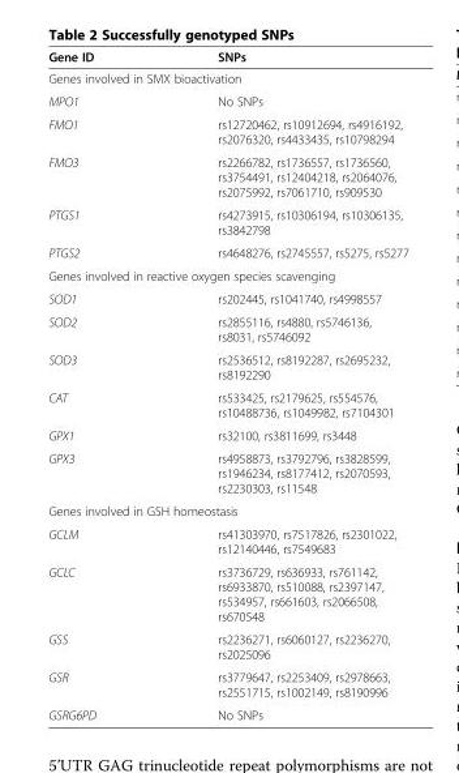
<table><thead><tr><td>Gene ID</td><td>SNPs</td></tr></thead><tbody><tr><td colspan="2">Genes involved in SMX bioactivation</td></tr><tr><td>MPO1</td><td>No SNPs</td></tr><tr><td>FMO1</td><td>rs12720462, rs10912694, rs4916192, rs2076320, rs4433435, rs10798294</td></tr><tr><td>FMO3</td><td>rs2266782, rs1736557, rs1736560, rs3754491, rs12404218, rs2064076, rs2075992, rs7061710, rs909530</td></tr><tr><td>PTGS1</td><td>rs4273915, rs10306194, rs10306135, rs3842798</td></tr><tr><td>PTGS2</td><td>rs4648276, rs2745557, rs5275, rs5277</td></tr><tr><td colspan="2">Genes involved in reactive oxygen species scavenging</td></tr><tr><td>SOD1</td><td>rs202445, rs1041740, rs4998557</td></tr><tr><td>SOD2</td><td>rs2855116, rs4880, rs5746136, rs8031, rs5746092</td></tr><tr><td>SOD3</td><td>rs2536512, rs8192287, rs2695232, rs8192290</td></tr><tr><td>CAT</td><td>rs533425, rs2179625, rs554576, rs10488736, rs1049982, rs7104301</td></tr><tr><td>GPX1</td><td>rs32100, rs3811699, rs3448</td></tr><tr><td>GPX3</td><td>rs4958873, rs3792796, rs3828599, rs1946234, rs8177412, rs2070593, rs2230303, rs11548</td></tr><tr><td colspan="2">Genes involved in GSH homeostasis</td></tr><tr><td>GCLM</td><td>rs41303970, rs7517826, rs2301022, rs12140446, rs7549683</td></tr><tr><td>GCLC</td><td>rs3736729, rs636933, rs761142, rs6933870, rs510088, rs2397147, rs534957, rs661603, rs2066508, rs670548</td></tr><tr><td>GSS</td><td>rs2236271, rs6060127, rs2236270, rs2025096</td></tr><tr><td>GSR</td><td>rs3779647, rs2253409, rs2978663, rs2551715, rs1002149, rs8190996</td></tr><tr><td>GSRG6PD</td><td>No SNPs</td></tr></tbody></table>